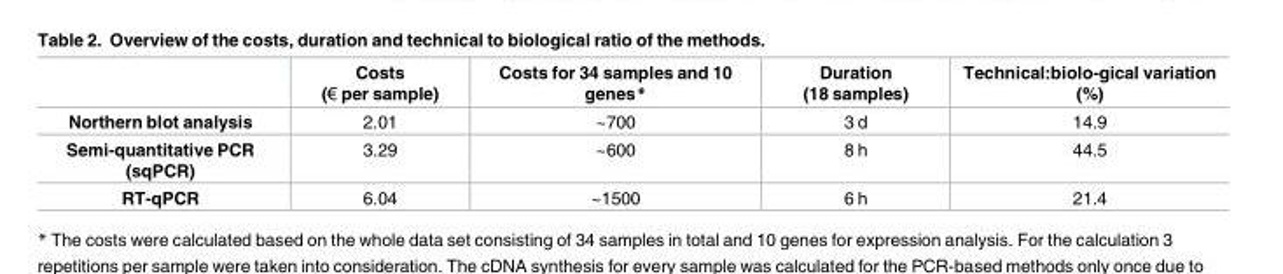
<table><thead><tr><td></td><td>Costs (€ per sample)</td><td>Costs for 34 samples and 10 genes*</td><td>Duration (18 samples)</td><td>Technical:biolo-gical variation (%)</td></tr></thead><tbody><tr><td>Northern blot analysis</td><td>2.01</td><td>~700</td><td>3 d</td><td>14.9</td></tr><tr><td>Semi-quantitative PCR (sqPCR)</td><td>3.29</td><td>~600</td><td>8 h</td><td>44.5</td></tr><tr><td>RT-qPCR</td><td>6.04</td><td>~1500</td><td>6 h</td><td>21.4</td></tr></tbody></table>